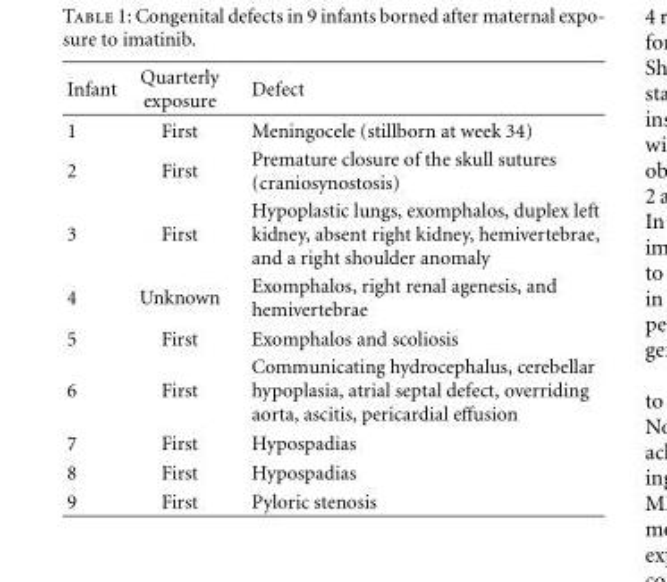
<table><thead><tr><td>Infant</td><td>Quarterly exposure</td><td>Defect</td></tr></thead><tbody><tr><td>1</td><td>First</td><td>Meningocele (stillborn at week 34)</td></tr><tr><td>2</td><td>First</td><td>Premature closure of the skull sutures (craniosynostosis)</td></tr><tr><td>3</td><td>First</td><td>Hypoplastic lungs, exomphalos, duplex left kidney, absent right kidney, hemivertebrae, and a right shoulder anomaly</td></tr><tr><td>4</td><td>Unknown</td><td>Exomphalos, right renal agenesis, and hemivertebrae</td></tr><tr><td>5</td><td>First</td><td>Exomphalos and scoliosis</td></tr><tr><td>6</td><td>First</td><td>Communicating hydrocephalus, cerebellar hypoplasia, atrial septal defect, overriding aorta, ascitis, pericardial effusion</td></tr><tr><td>7</td><td>First</td><td>Hypospadias</td></tr><tr><td>8</td><td>First</td><td>Hypospadias</td></tr><tr><td>9</td><td>First</td><td>Pyloric stenosis</td></tr></tbody></table>